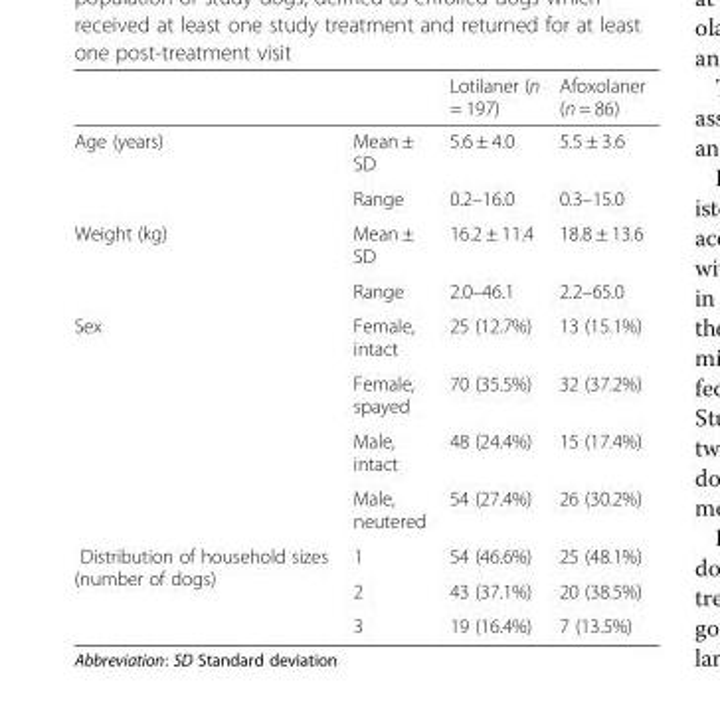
<table><thead><tr><td></td><td></td><td>Lotilaner (n = 197)</td><td>Afoxolaner (n = 86)</td></tr></thead><tbody><tr><td rowspan="2">Age (years)</td><td>Mean ± SD</td><td>5.6 ± 4.0</td><td>5.5 ± 3.6</td></tr><tr><td>Range</td><td>0.2–16.0</td><td>0.3–15.0</td></tr><tr><td rowspan="2">Weight (kg)</td><td>Mean ± SD</td><td>16.2 ± 11.4</td><td>18.8 ± 13.6</td></tr><tr><td>Range</td><td>2.0–46.1</td><td>2.2–65.0</td></tr><tr><td rowspan="4">Sex</td><td>Female, intact</td><td>25 (12.7%)</td><td>13 (15.1%)</td></tr><tr><td>Female, spayed</td><td>70 (35.5%)</td><td>32 (37.2%)</td></tr><tr><td>Male, intact</td><td>48 (24.4%)</td><td>15 (17.4%)</td></tr><tr><td>Male, neutered</td><td>54 (27.4%)</td><td>26 (30.2%)</td></tr><tr><td rowspan="3">Distribution of household sizes (number of dogs)</td><td>1</td><td>54 (46.6%)</td><td>25 (48.1%)</td></tr><tr><td>2</td><td>43 (37.1%)</td><td>20 (38.5%)</td></tr><tr><td>3</td><td>19 (16.4%)</td><td>7 (13.5%)</td></tr></tbody></table>